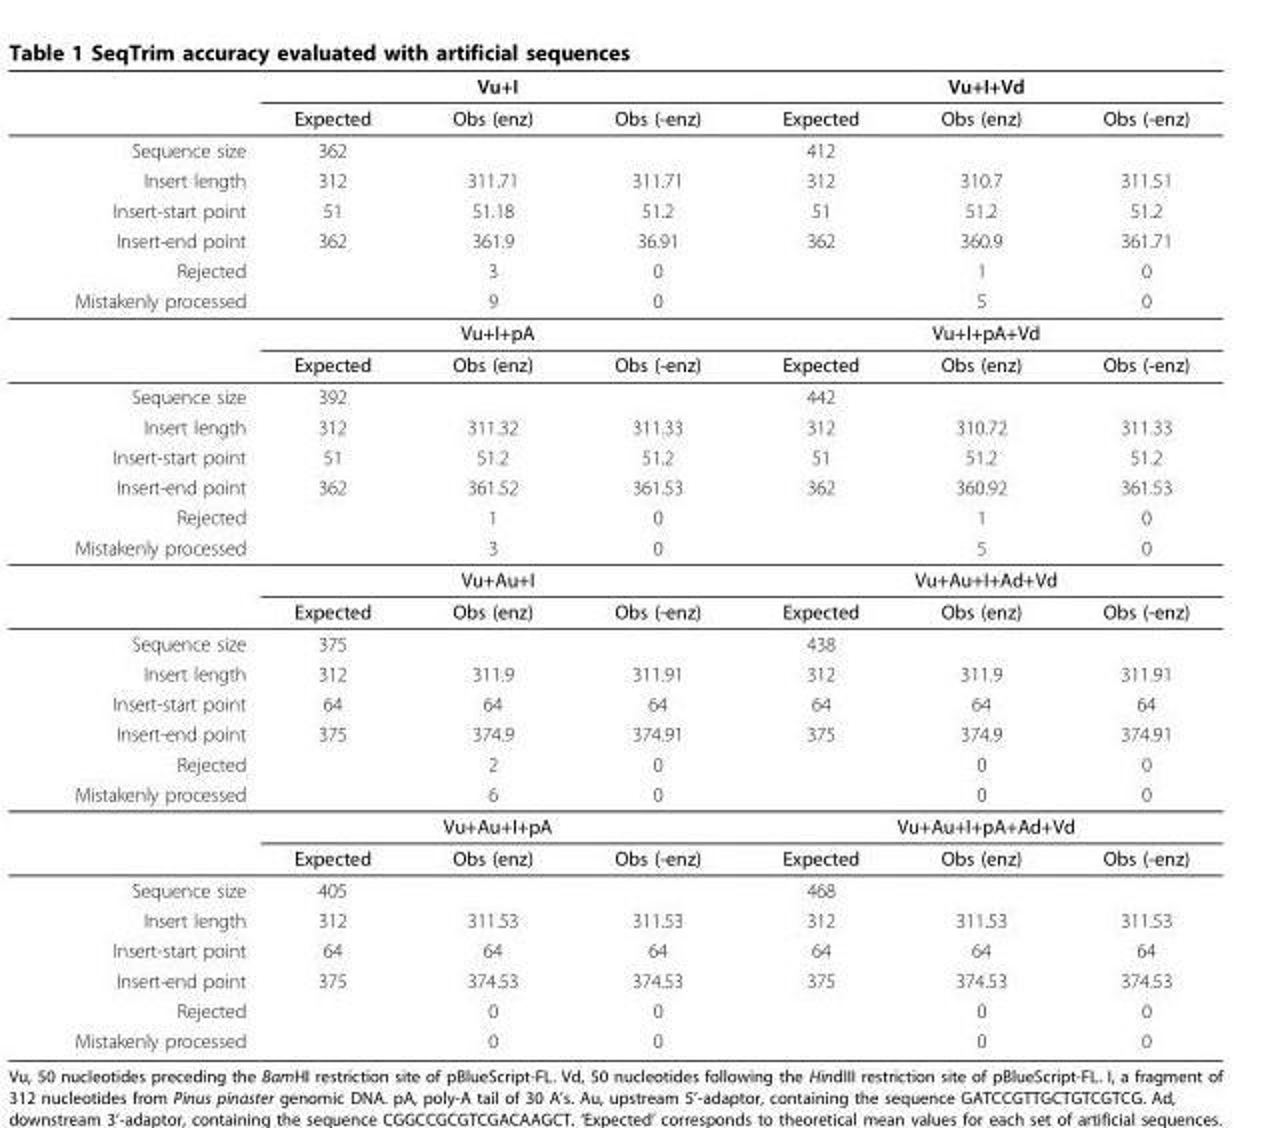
<table><thead><tr><td rowspan="2"></td><td colspan="3">Vu+I</td><td colspan="3">Vu+I+Vd</td></tr><tr><td>Expected</td><td>Obs (enz)</td><td>Obs (-enz)</td><td>Expected</td><td>Obs (enz)</td><td>Obs (-enz)</td></tr></thead><tbody><tr><td>Sequence size</td><td>362</td><td></td><td></td><td>412</td><td></td><td></td></tr><tr><td>Insert length</td><td>312</td><td>311.71</td><td>311.71</td><td>312</td><td>310.7</td><td>311.51</td></tr><tr><td>Insert-start point</td><td>51</td><td>51.18</td><td>51.2</td><td>51</td><td>51.2</td><td>51.2</td></tr><tr><td>Insert-end point</td><td>362</td><td>361.9</td><td>36.91</td><td>362</td><td>360.9</td><td>361.71</td></tr><tr><td>Rejected</td><td></td><td>3</td><td>0</td><td></td><td>1</td><td>0</td></tr><tr><td rowspan="3">Mistakenly processed</td><td></td><td>9</td><td>0</td><td></td><td>5</td><td>0</td></tr><tr><td colspan="3">Vu+I+pA</td><td colspan="3">Vu+I+pA+Vd</td></tr><tr><td>Expected</td><td>Obs (enz)</td><td>Obs (-enz)</td><td>Expected</td><td>Obs (enz)</td><td>Obs (-enz)</td></tr><tr><td>Sequence size</td><td>392</td><td></td><td></td><td>442</td><td></td><td></td></tr><tr><td>Insert length</td><td>312</td><td>311.32</td><td>311.33</td><td>312</td><td>310.72</td><td>311.33</td></tr><tr><td>Insert-start point</td><td>51</td><td>51.2</td><td>51.2</td><td>51</td><td>51.2</td><td>51.2</td></tr><tr><td>Insert-end point</td><td>362</td><td>361.52</td><td>361.53</td><td>362</td><td>360.92</td><td>361.53</td></tr><tr><td>Rejected</td><td></td><td>1</td><td>0</td><td></td><td>1</td><td>0</td></tr><tr><td rowspan="3">Mistakenly processed</td><td></td><td>3</td><td>0</td><td></td><td>5</td><td>0</td></tr><tr><td colspan="3">Vu+Au+I</td><td colspan="3">Vu+Au+I+Ad+Vd</td></tr><tr><td>Expected</td><td>Obs (enz)</td><td>Obs (-enz)</td><td>Expected</td><td>Obs (enz)</td><td>Obs (-enz)</td></tr><tr><td>Sequence size</td><td>375</td><td></td><td></td><td>438</td><td></td><td></td></tr><tr><td>Insert length</td><td>312</td><td>311.9</td><td>311.91</td><td>312</td><td>311.9</td><td>311.91</td></tr><tr><td>Insert-start point</td><td>64</td><td>64</td><td>64</td><td>64</td><td>64</td><td>64</td></tr><tr><td>Insert-end point</td><td>375</td><td>374.9</td><td>374.91</td><td>375</td><td>374.9</td><td>374.91</td></tr><tr><td>Rejected</td><td></td><td>2</td><td>0</td><td></td><td>0</td><td>0</td></tr><tr><td rowspan="3">Mistakenly processed</td><td></td><td>6</td><td>0</td><td></td><td>0</td><td>0</td></tr><tr><td colspan="3">Vu+Au+I+pA</td><td colspan="3">Vu+Au+I+pA+Ad+Vd</td></tr><tr><td>Expected</td><td>Obs (enz)</td><td>Obs (-enz)</td><td>Expected</td><td>Obs (enz)</td><td>Obs (-enz)</td></tr><tr><td>Sequence size</td><td>405</td><td></td><td></td><td>468</td><td></td><td></td></tr><tr><td>Insert length</td><td>312</td><td>311.53</td><td>311.53</td><td>312</td><td>311.53</td><td>311.53</td></tr><tr><td>Insert-start point</td><td>64</td><td>64</td><td>64</td><td>64</td><td>64</td><td>64</td></tr><tr><td>Insert-end point</td><td>375</td><td>374.53</td><td>374.53</td><td>375</td><td>374.53</td><td>374.53</td></tr><tr><td>Rejected</td><td></td><td>0</td><td>0</td><td></td><td>0</td><td>0</td></tr><tr><td>Mistakenly processed</td><td></td><td>0</td><td>0</td><td></td><td>0</td><td>0</td></tr></tbody></table>